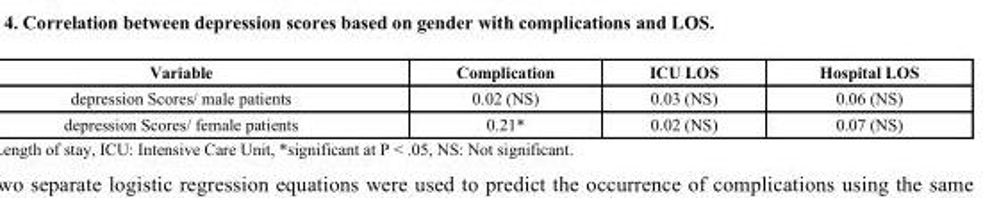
<table><thead><tr><td>Variable</td><td>Complication</td><td>ICU LOS</td><td>Hospital LOS</td></tr></thead><tbody><tr><td>depression Scores/ male patients</td><td>0.02 (NS)</td><td>0.03 (NS)</td><td>0.06 (NS)</td></tr><tr><td>depression Scores/ female patients</td><td>0.21*</td><td>0.02 (NS)</td><td>0.07 (NS)</td></tr></tbody></table>